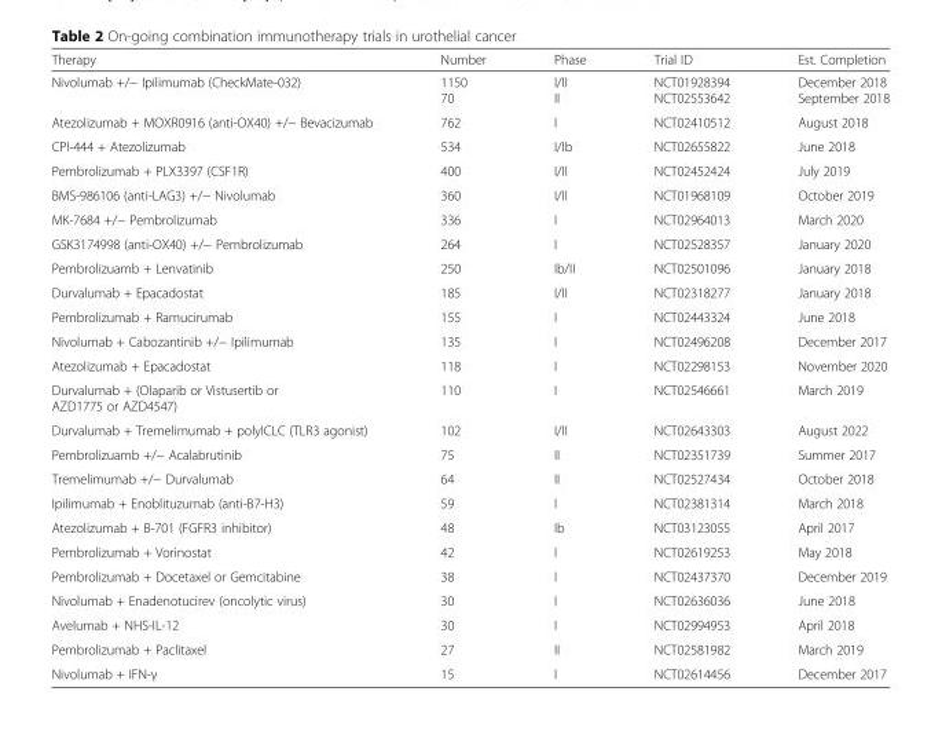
<table><thead><tr><td>Therapy</td><td>Number</td><td>Phase</td><td>Trial ID</td><td>Est. Completion</td></tr></thead><tbody><tr><td>Nivolumab +/− Ipilimumab (CheckMate-032)</td><td>1150 70</td><td>I/II II</td><td>NCT01928394 NCT02553642</td><td>December 2018 September 2018</td></tr><tr><td>Atezolizumab + MOXR0916 (anti-OX40) +/− Bevacizumab</td><td>762</td><td>I</td><td>NCT02410512</td><td>August 2018</td></tr><tr><td>CPI-444 + Atezolizumab</td><td>534</td><td>I/Ib</td><td>NCT02655822</td><td>June 2018</td></tr><tr><td>Pembrolizumab + PLX3397 (CSF1R)</td><td>400</td><td>I/II</td><td>NCT02452424</td><td>July 2019</td></tr><tr><td>BMS-986106 (anti-LAG3) +/− Nivolumab</td><td>360</td><td>I/II</td><td>NCT01968109</td><td>October 2019</td></tr><tr><td>MK-7684 +/− Pembrolizumab</td><td>336</td><td>I</td><td>NCT02964013</td><td>March 2020</td></tr><tr><td>GSK3174998 (anti-OX40) +/− Pembrolizumab</td><td>264</td><td>I</td><td>NCT02528357</td><td>January 2020</td></tr><tr><td>Pembrolizuamb + Lenvatinib</td><td>250</td><td>Ib/II</td><td>NCT02501096</td><td>January 2018</td></tr><tr><td>Durvalumab + Epacadostat</td><td>185</td><td>I/II</td><td>NCT02318277</td><td>January 2018</td></tr><tr><td>Pembrolizumab + Ramucirumab</td><td>155</td><td>I</td><td>NCT02443324</td><td>June 2018</td></tr><tr><td>Nivolumab + Cabozantinib +/− Ipilimumab</td><td>135</td><td>I</td><td>NCT02496208</td><td>December 2017</td></tr><tr><td>Atezolizumab + Epacadostat</td><td>118</td><td>I</td><td>NCT02298153</td><td>November 2020</td></tr><tr><td>Durvalumab + (Olaparib or Vistusertib or AZD1775 or AZD4547)</td><td>110</td><td>I</td><td>NCT02546661</td><td>March 2019</td></tr><tr><td>Durvalumab + Tremelimumab + polyICLC (TLR3 agonist)</td><td>102</td><td>I/II</td><td>NCT02643303</td><td>August 2022</td></tr><tr><td>Pembrolizuamb +/− Acalabrutinib</td><td>75</td><td>II</td><td>NCT02351739</td><td>Summer 2017</td></tr><tr><td>Tremelimumab +/− Durvalumab</td><td>64</td><td>II</td><td>NCT02527434</td><td>October 2018</td></tr><tr><td>Ipilimumab + Enoblituzumab (anti-B7-H3)</td><td>59</td><td>I</td><td>NCT02381314</td><td>March 2018</td></tr><tr><td>Atezolizumab + B-701 (FGFR3 inhibitor)</td><td>48</td><td>Ib</td><td>NCT03123055</td><td>April 2017</td></tr><tr><td>Pembrolizumab + Vorinostat</td><td>42</td><td>I</td><td>NCT02619253</td><td>May 2018</td></tr><tr><td>Pembrolizumab + Docetaxel or Gemcitabine</td><td>38</td><td>I</td><td>NCT02437370</td><td>December 2019</td></tr><tr><td>Nivolumab + Enadenotucirev (oncolytic virus)</td><td>30</td><td>I</td><td>NCT02636036</td><td>June 2018</td></tr><tr><td>Avelumab + NHS-IL-12</td><td>30</td><td>I</td><td>NCT02994953</td><td>April 2018</td></tr><tr><td>Pembrolizumab + Paclitaxel</td><td>27</td><td>II</td><td>NCT02581982</td><td>March 2019</td></tr><tr><td>Nivolumab + IFN-γ</td><td>15</td><td>I</td><td>NCT02614456</td><td>December 2017</td></tr></tbody></table>